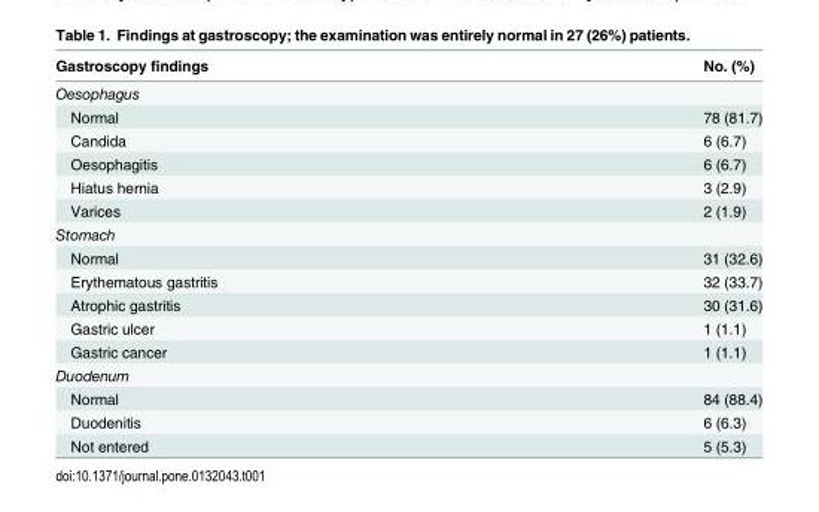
<table><thead><tr><td>Gastroscopy findings</td><td>No. (%)</td></tr></thead><tbody><tr><td colspan="2">Oesophagus</td></tr><tr><td>Normal</td><td>78 (81.7)</td></tr><tr><td>Candida</td><td>6 (6.7)</td></tr><tr><td>Oesophagitis</td><td>6 (6.7)</td></tr><tr><td>Hiatus hernia</td><td>3 (2.9)</td></tr><tr><td>Varices</td><td>2 (1.9)</td></tr><tr><td colspan="2">Stomach</td></tr><tr><td>Normal</td><td>31 (32.6)</td></tr><tr><td>Erythematous gastritis</td><td>32 (33.7)</td></tr><tr><td>Atrophic gastritis</td><td>30 (31.6)</td></tr><tr><td>Gastric ulcer</td><td>1 (1.1)</td></tr><tr><td>Gastric cancer</td><td>1 (1.1)</td></tr><tr><td colspan="2">Duodenum</td></tr><tr><td>Normal</td><td>84 (88.4)</td></tr><tr><td>Duodenitis</td><td>6 (6.3)</td></tr><tr><td>Not entered</td><td>5 (5.3)</td></tr></tbody></table>